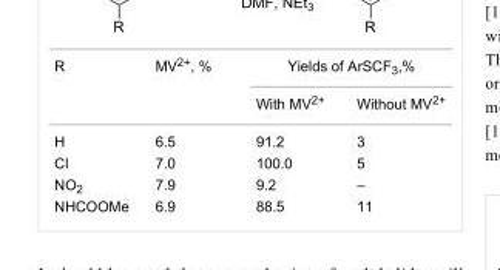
<table><tbody><tr><td>R</td><td>MV<sup>2+</sup>, %</td><td colspan="2">Yields of ArSCF<sub>3</sub>,%</td></tr><tr><td colspan="2"></td><td>With MV<sup>2+</sup></td><td>Without MV<sup>2+</sup></td></tr><tr><td>H</td><td>6.5</td><td>91.2</td><td>3</td></tr><tr><td>Cl</td><td>7.0</td><td>100.0</td><td>5</td></tr><tr><td>NO<sub>2</sub></td><td>7.9</td><td>9.2</td><td>–</td></tr><tr><td>NHCOOMe</td><td>6.9</td><td>88.5</td><td>11</td></tr></tbody></table>